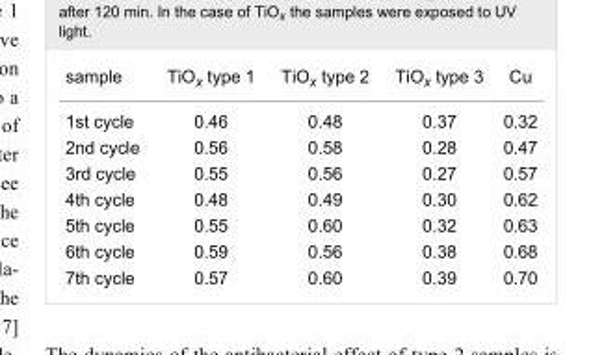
<table><tbody><tr><td>sample</td><td>TiO<sub>x</sub> type 1</td><td>TiO<sub>x</sub> type 2</td><td>TiO<sub>x</sub> type 3</td><td>Cu</td></tr><tr><td>1st cycle</td><td>0.46</td><td>0.48</td><td>0.37</td><td>0.32</td></tr><tr><td>2nd cycle</td><td>0.56</td><td>0.58</td><td>0.28</td><td>0.47</td></tr><tr><td>3rd cycle</td><td>0.55</td><td>0.56</td><td>0.27</td><td>0.57</td></tr><tr><td>4th cycle</td><td>0.48</td><td>0.49</td><td>0.30</td><td>0.62</td></tr><tr><td>5th cycle</td><td>0.55</td><td>0.60</td><td>0.32</td><td>0.63</td></tr><tr><td>6th cycle</td><td>0.59</td><td>0.56</td><td>0.38</td><td>0.68</td></tr><tr><td>7th cycle</td><td>0.57</td><td>0.60</td><td>0.39</td><td>0.70</td></tr></tbody></table>